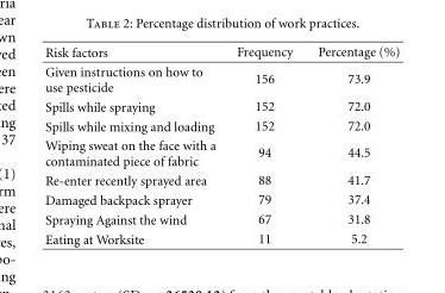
<table><thead><tr><td>Risk factors</td><td>Frequency</td><td>Percentage (%)</td></tr></thead><tbody><tr><td>Given instructions on how to use pesticide</td><td>156</td><td>73.9</td></tr><tr><td>Spills while spraying</td><td>152</td><td>72.0</td></tr><tr><td>Spills while mixing and loading</td><td>152</td><td>72.0</td></tr><tr><td>Wiping sweat on the face with a contaminated piece of fabric</td><td>94</td><td>44.5</td></tr><tr><td>Re-enter recently sprayed area</td><td>88</td><td>41.7</td></tr><tr><td>Damaged backpack sprayer</td><td>79</td><td>37.4</td></tr><tr><td>Spraying Against the wind</td><td>67</td><td>31.8</td></tr><tr><td>Eating at Worksite</td><td>11</td><td>5.2</td></tr></tbody></table>